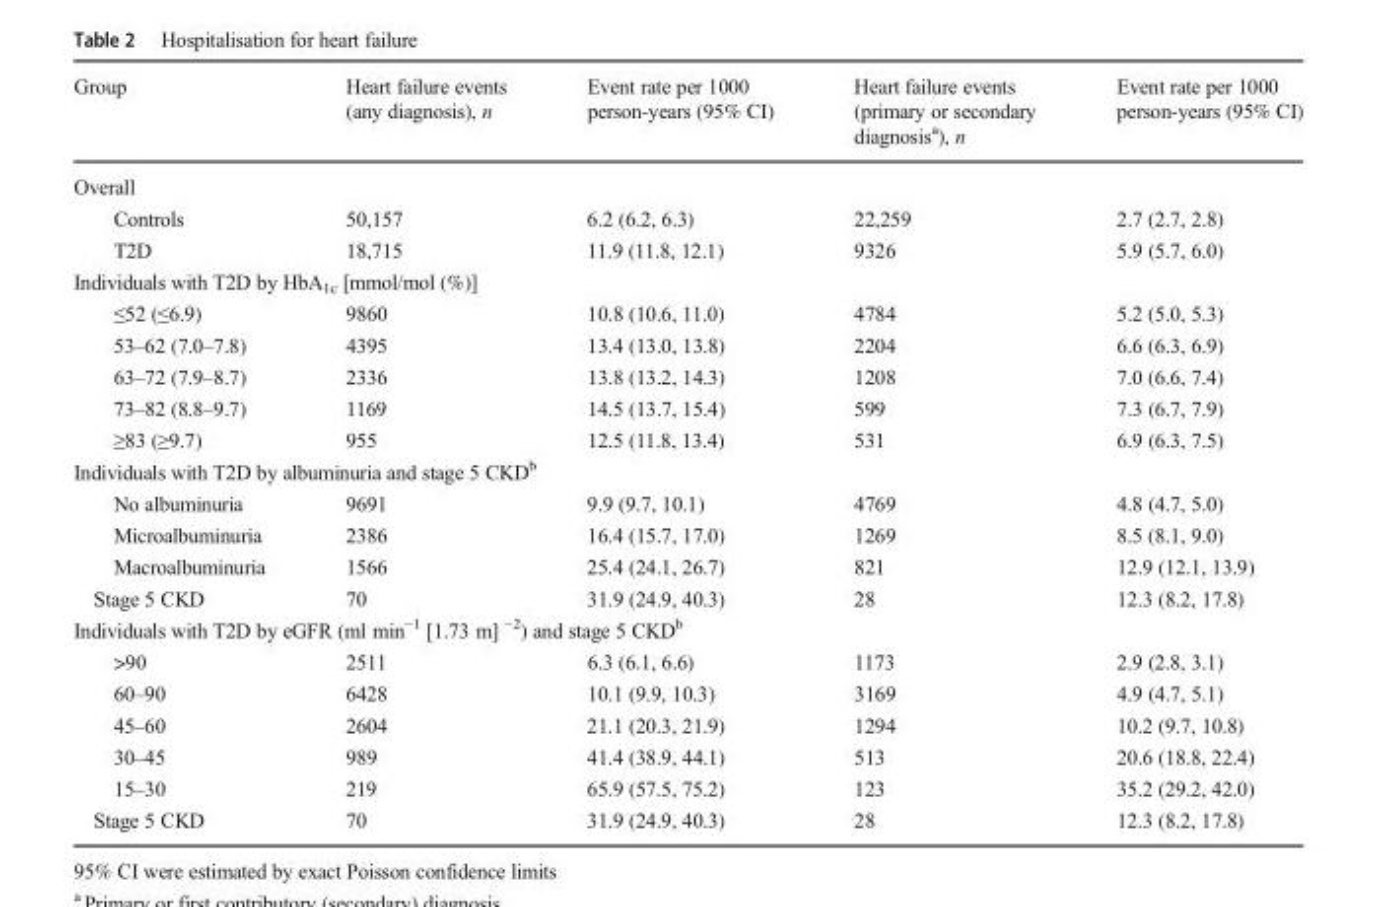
<table><thead><tr><td>Group</td><td>Heart failure events (any diagnosis), n</td><td>Event rate per 1000 person-years (95% CI)</td><td>Heart failure events (primary or secondary diagnosis<sup>a</sup>), n</td><td>Event rate per 1000 person-years (95% CI)</td></tr></thead><tbody><tr><td colspan="5">Overall</td></tr><tr><td>Controls</td><td>50,157</td><td>6.2 (6.2, 6.3)</td><td>22,259</td><td>2.7 (2.7, 2.8)</td></tr><tr><td>T2D</td><td>18,715</td><td>11.9 (11.8, 12.1)</td><td>9326</td><td>5.9 (5.7, 6.0)</td></tr><tr><td colspan="5">Individuals with T2D by HbA<sub>1c</sub> [mmol/mol (%)]</td></tr><tr><td>≤52 (≤6.9)</td><td>9860</td><td>10.8 (10.6, 11.0)</td><td>4784</td><td>5.2 (5.0, 5.3)</td></tr><tr><td>53–62 (7.0–7.8)</td><td>4395</td><td>13.4 (13.0, 13.8)</td><td>2204</td><td>6.6 (6.3, 6.9)</td></tr><tr><td>63–72 (7.9–8.7)</td><td>2336</td><td>13.8 (13.2, 14.3)</td><td>1208</td><td>7.0 (6.6, 7.4)</td></tr><tr><td>73–82 (8.8–9.7)</td><td>1169</td><td>14.5 (13.7, 15.4)</td><td>599</td><td>7.3 (6.7, 7.9)</td></tr><tr><td>≥83 (≥9.7)</td><td>955</td><td>12.5 (11.8, 13.4)</td><td>531</td><td>6.9 (6.3, 7.5)</td></tr><tr><td colspan="5">Individuals with T2D by albuminuria and stage 5 CKD<sup>b</sup></td></tr><tr><td>No albuminuria</td><td>9691</td><td>9.9 (9.7, 10.1)</td><td>4769</td><td>4.8 (4.7, 5.0)</td></tr><tr><td>Microalbuminuria</td><td>2386</td><td>16.4 (15.7, 17.0)</td><td>1269</td><td>8.5 (8.1, 9.0)</td></tr><tr><td>Macroalbuminuria</td><td>1566</td><td>25.4 (24.1, 26.7)</td><td>821</td><td>12.9 (12.1, 13.9)</td></tr><tr><td>Stage 5 CKD</td><td>70</td><td>31.9 (24.9, 40.3)</td><td>28</td><td>12.3 (8.2, 17.8)</td></tr><tr><td colspan="5">Individuals with T2D by eGFR (ml min<sup>−1</sup> [1.73 m] <sup>−2</sup>) and stage 5 CKD<sup>b</sup></td></tr><tr><td>&gt;90</td><td>2511</td><td>6.3 (6.1, 6.6)</td><td>1173</td><td>2.9 (2.8, 3.1)</td></tr><tr><td>60–90</td><td>6428</td><td>10.1 (9.9, 10.3)</td><td>3169</td><td>4.9 (4.7, 5.1)</td></tr><tr><td>45–60</td><td>2604</td><td>21.1 (20.3, 21.9)</td><td>1294</td><td>10.2 (9.7, 10.8)</td></tr><tr><td>30–45</td><td>989</td><td>41.4 (38.9, 44.1)</td><td>513</td><td>20.6 (18.8, 22.4)</td></tr><tr><td>15–30</td><td>219</td><td>65.9 (57.5, 75.2)</td><td>123</td><td>35.2 (29.2, 42.0)</td></tr><tr><td>Stage 5 CKD</td><td>70</td><td>31.9 (24.9, 40.3)</td><td>28</td><td>12.3 (8.2, 17.8)</td></tr></tbody></table>